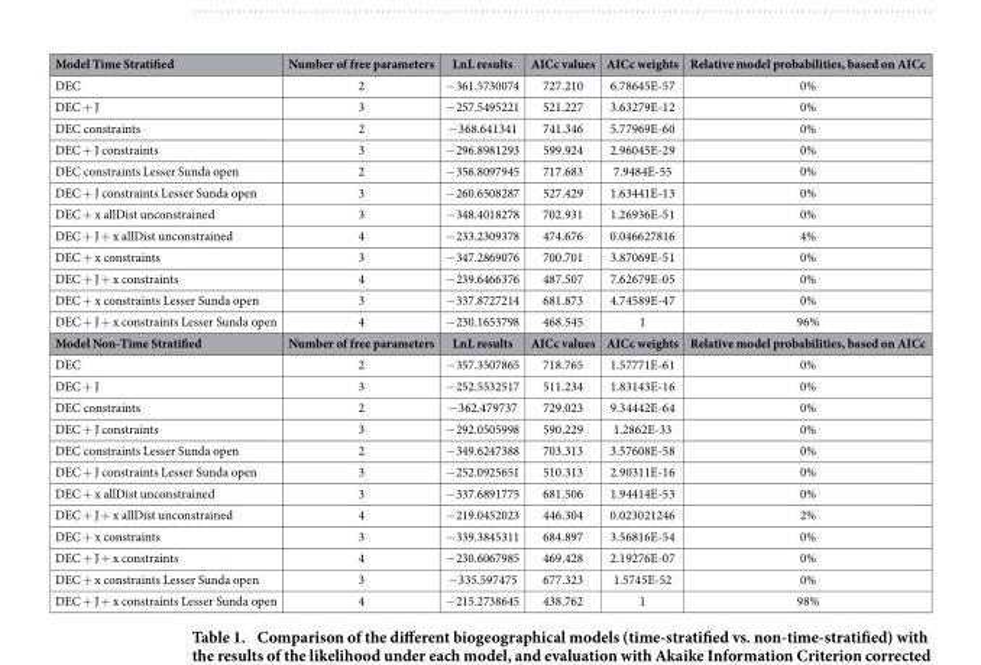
<table><thead><tr><td>Model Time Stratified</td><td>Number of free parameters</td><td>LnL results</td><td>AICc values</td><td>AICc weights</td><td>Relative model probabilities, based on AICc</td></tr></thead><tbody><tr><td>DEC</td><td>2</td><td>− 361.5730074</td><td>727.210</td><td>6.78645E-57</td><td>0%</td></tr><tr><td>DEC + J</td><td>3</td><td>− 257.5495221</td><td>521.227</td><td>3.63279E-12</td><td>0%</td></tr><tr><td>DEC constraints</td><td>2</td><td>− 368.641341</td><td>741.346</td><td>5.77969E-60</td><td>0%</td></tr><tr><td>DEC + J constraints</td><td>3</td><td>− 296.8981293</td><td>599.924</td><td>2.96045E-29</td><td>0%</td></tr><tr><td>DEC constraints Lesser Sunda open</td><td>2</td><td>− 356.8097945</td><td>717.683</td><td>7.9484E-55</td><td>0%</td></tr><tr><td>DEC + J constraints Lesser Sunda open</td><td>3</td><td>− 260.6508287</td><td>527.429</td><td>1.63441E-13</td><td>0%</td></tr><tr><td>DEC + x allDist unconstrained</td><td>3</td><td>− 348.4018278</td><td>702.931</td><td>1.26936E-51</td><td>0%</td></tr><tr><td>DEC + J + x allDist unconstrained</td><td>4</td><td>− 233.2309378</td><td>474.676</td><td>0.046627816</td><td>4%</td></tr><tr><td>DEC + x constraints</td><td>3</td><td>− 347.2869076</td><td>700.701</td><td>3.87069E-51</td><td>0%</td></tr><tr><td>DEC + J + x constraints</td><td>4</td><td>− 239.6466376</td><td>487.507</td><td>7.62679E-05</td><td>0%</td></tr><tr><td>DEC + x constraints Lesser Sunda open</td><td>3</td><td>− 337.8727214</td><td>681.873</td><td>4.74589E-47</td><td>0%</td></tr><tr><td>DEC + J + x constraints Lesser Sunda open</td><td>4</td><td>− 230.1653798</td><td>468.545</td><td>1</td><td>96%</td></tr><tr><td>Model Non-Time Stratified</td><td>Number of free parameters</td><td>LnL results</td><td>AICc values</td><td>AICc weights</td><td>Relative model probabilities, based on AICc</td></tr><tr><td>DEC</td><td>2</td><td>− 357.3507865</td><td>718.765</td><td>1.57771E-61</td><td>0%</td></tr><tr><td>DEC + J</td><td>3</td><td>− 252.5532517</td><td>511.234</td><td>1.83143E-16</td><td>0%</td></tr><tr><td>DEC constraints</td><td>2</td><td>− 362.479737</td><td>729.023</td><td>9.34442E-64</td><td>0%</td></tr><tr><td>DEC + J constraints</td><td>3</td><td>− 292.0505998</td><td>590.229</td><td>1.2862E-33</td><td>0%</td></tr><tr><td>DEC constraints Lesser Sunda open</td><td>2</td><td>− 349.6247388</td><td>703.313</td><td>3.57608E-58</td><td>0%</td></tr><tr><td>DEC + J constraints Lesser Sunda open</td><td>3</td><td>− 252.0925651</td><td>510.313</td><td>2.90311E-16</td><td>0%</td></tr><tr><td>DEC + x allDist unconstrained</td><td>3</td><td>− 337.6891775</td><td>681.506</td><td>1.94414E-53</td><td>0%</td></tr><tr><td>DEC + J + x allDist unconstrained</td><td>4</td><td>− 219.0452023</td><td>446.304</td><td>0.023021246</td><td>2%</td></tr><tr><td>DEC + x constraints</td><td>3</td><td>− 339.3845311</td><td>684.897</td><td>3.56816E-54</td><td>0%</td></tr><tr><td>DEC + J + x constraints</td><td>4</td><td>− 230.6067985</td><td>469.428</td><td>2.19276E-07</td><td>0%</td></tr><tr><td>DEC + x constraints Lesser Sunda open</td><td>3</td><td>− 335.597475</td><td>677.323</td><td>1.5745E-52</td><td>0%</td></tr><tr><td>DEC + J + x constraints Lesser Sunda open</td><td>4</td><td>− 215.2738645</td><td>438.762</td><td>1</td><td>98%</td></tr></tbody></table>